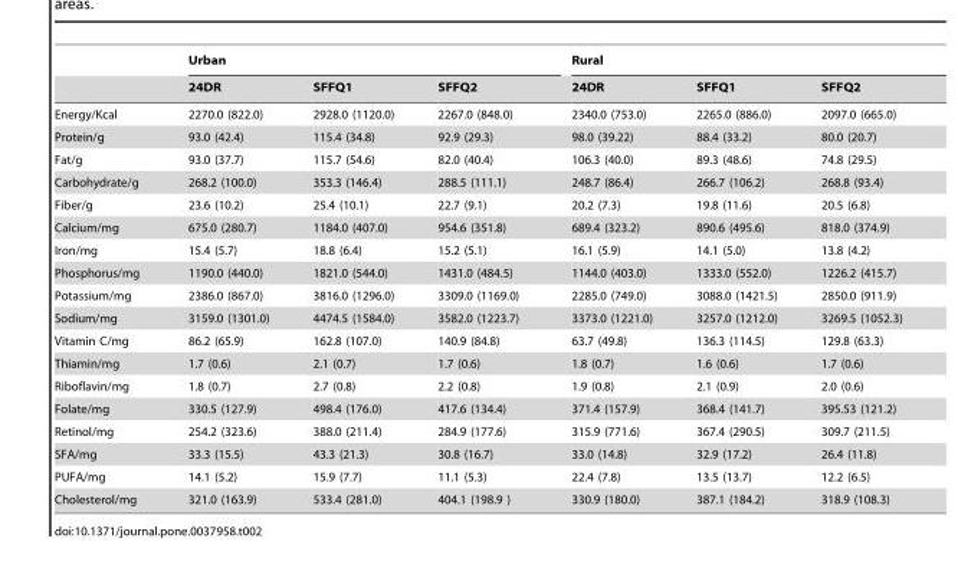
<table><thead><tr><td rowspan="2"></td><td colspan="3">Urban</td><td colspan="3">Rural</td></tr><tr><td>24DR</td><td>SFFQ1</td><td>SFFQ2</td><td>24DR</td><td>SFFQ1</td><td>SFFQ2</td></tr></thead><tbody><tr><td>Energy/Kcal</td><td>2270.0 (822.0)</td><td>2928.0 (1120.0)</td><td>2267.0 (848.0)</td><td>2340.0 (753.0)</td><td>2265.0 (886.0)</td><td>2097.0 (665.0)</td></tr><tr><td>Protein/g</td><td>93.0 (42.4)</td><td>115.4 (34.8)</td><td>92.9 (29.3)</td><td>98.0 (39.22)</td><td>88.4 (33.2)</td><td>80.0 (20.7)</td></tr><tr><td>Fat/g</td><td>93.0 (37.7)</td><td>115.7 (54.6)</td><td>82.0 (40.4)</td><td>106.3 (40.0)</td><td>89.3 (48.6)</td><td>74.8 (29.5)</td></tr><tr><td>Carbohydrate/g</td><td>268.2 (100.0)</td><td>353.3 (146.4)</td><td>288.5 (111.1)</td><td>248.7 (86.4)</td><td>266.7 (106.2)</td><td>268.8 (93.4)</td></tr><tr><td>Fiber/g</td><td>23.6 (10.2)</td><td>25.4 (10.1)</td><td>22.7 (9.1)</td><td>20.2 (7.3)</td><td>19.8 (11.6)</td><td>20.5 (6.8)</td></tr><tr><td>Calcium/mg</td><td>675.0 (280.7)</td><td>1184.0 (407.0)</td><td>954.6 (351.8)</td><td>689.4 (323.2)</td><td>890.6 (495.6)</td><td>818.0 (374.9)</td></tr><tr><td>Iron/mg</td><td>15.4 (5.7)</td><td>18.8 (6.4)</td><td>15.2 (5.1)</td><td>16.1 (5.9)</td><td>14.1 (5.0)</td><td>13.8 (4.2)</td></tr><tr><td>Phosphorus/mg</td><td>1190.0 (440.0)</td><td>1821.0 (544.0)</td><td>1431.0 (484.5)</td><td>1144.0 (403.0)</td><td>1333.0 (552.0)</td><td>1226.2 (415.7)</td></tr><tr><td>Potassium/mg</td><td>2386.0 (867.0)</td><td>3816.0 (1296.0)</td><td>3309.0 (1169.0)</td><td>2285.0 (749.0)</td><td>3088.0 (1421.5)</td><td>2850.0 (911.9)</td></tr><tr><td>Sodium/mg</td><td>3159.0 (1301.0)</td><td>4474.5 (1584.0)</td><td>3582.0 (1223.7)</td><td>3373.0 (1221.0)</td><td>3257.0 (1212.0)</td><td>3269.5 (1052.3)</td></tr><tr><td>Vitamin C/mg</td><td>86.2 (65.9)</td><td>162.8 (107.0)</td><td>140.9 (84.8)</td><td>63.7 (49.8)</td><td>136.3 (114.5)</td><td>129.8 (63.3)</td></tr><tr><td>Thiamin/mg</td><td>1.7 (0.6)</td><td>2.1 (0.7)</td><td>1.7 (0.6)</td><td>1.8 (0.7)</td><td>1.6 (0.6)</td><td>1.7 (0.6)</td></tr><tr><td>Riboflavin/mg</td><td>1.8 (0.7)</td><td>2.7 (0.8)</td><td>2.2 (0.8)</td><td>1.9 (0.8)</td><td>2.1 (0.9)</td><td>2.0 (0.6)</td></tr><tr><td>Folate/mg</td><td>330.5 (127.9)</td><td>498.4 (176.0)</td><td>417.6 (134.4)</td><td>371.4 (157.9)</td><td>368.4 (141.7)</td><td>395.53 (121.2)</td></tr><tr><td>Retinol/mg</td><td>254.2 (323.6)</td><td>388.0 (211.4)</td><td>284.9 (177.6)</td><td>315.9 (771.6)</td><td>367.4 (290.5)</td><td>309.7 (211.5)</td></tr><tr><td>SFA/mg</td><td>33.3 (15.5)</td><td>43.3 (21.3)</td><td>30.8 (16.7)</td><td>33.0 (14.8)</td><td>32.9 (17.2)</td><td>26.4 (11.8)</td></tr><tr><td>PUFA/mg</td><td>14.1 (5.2)</td><td>15.9 (7.7)</td><td>11.1 (5.3)</td><td>22.4 (7.8)</td><td>13.5 (13.7)</td><td>12.2 (6.5)</td></tr><tr><td>Cholesterol/mg</td><td>321.0 (163.9)</td><td>533.4 (281.0)</td><td>404.1 (198.9 )</td><td>330.9 (180.0)</td><td>387.1 (184.2)</td><td>318.9 (108.3)</td></tr></tbody></table>